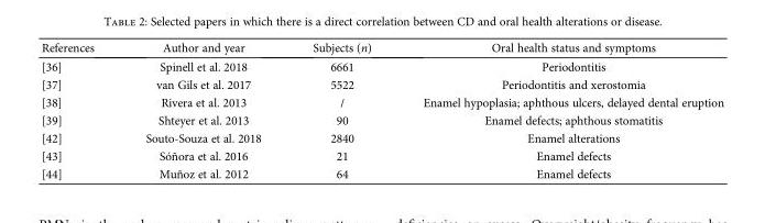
<table><thead><tr><td>References</td><td>Author and year</td><td>Subjects (n)</td><td>Oral health status and symptoms</td></tr></thead><tbody><tr><td>[36]</td><td>Spinell et al. 2018</td><td>6661</td><td>Periodontitis</td></tr><tr><td>[37]</td><td>van Gils et al. 2017</td><td>5522</td><td>Periodontitis and xerostomia</td></tr><tr><td>[38]</td><td>Rivera et al. 2013</td><td>/</td><td>Enamel hypoplasia; aphthous ulcers, delayed dental eruption</td></tr><tr><td>[39]</td><td>Shteyer et al. 2013</td><td>90</td><td>Enamel defects; aphthous stomatitis</td></tr><tr><td>[42]</td><td>Souto-Souza et al. 2018</td><td>2840</td><td>Enamel alterations</td></tr><tr><td>[43]</td><td>Sóñora et al. 2016</td><td>21</td><td>Enamel defects</td></tr><tr><td>[44]</td><td>Muñoz et al. 2012</td><td>64</td><td>Enamel defects</td></tr></tbody></table>